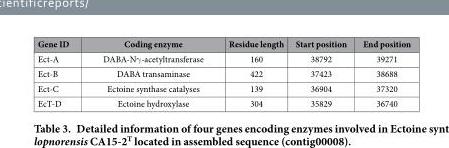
<table><thead><tr><td>Gene ID</td><td>Coding enzyme</td><td>Residue length</td><td>Start position</td><td>End position</td></tr></thead><tbody><tr><td>Ect-A</td><td>DABA-Nγ -acetyltransferase</td><td>160</td><td>38792</td><td>39271</td></tr><tr><td>Ect-B</td><td>DABA transaminase</td><td>422</td><td>37423</td><td>38688</td></tr><tr><td>Ect-C</td><td>Ectoine synthase catalyses</td><td>139</td><td>36904</td><td>37320</td></tr><tr><td>EcT-D</td><td>Ectoine hydroxylase</td><td>304</td><td>35829</td><td>36740</td></tr></tbody></table>